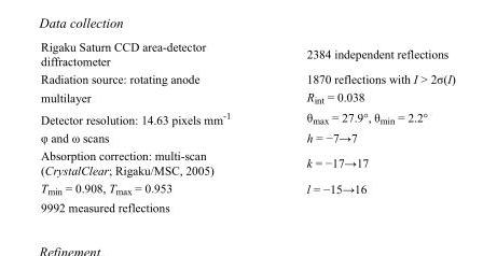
<table><tbody><tr><td>Rigaku Saturn CCD area-detector diffractometer</td><td>2384 independent reflections</td></tr><tr><td>Radiation source: rotating anode</td><td>1870 reflections with I &gt; 2σ(I)</td></tr><tr><td>multilayer</td><td>R<sub>int</sub> = 0.038</td></tr><tr><td>Detector resolution: 14.63 pixels mm<sup>-1</sup></td><td>θ<sub>max</sub> = 27.9°, θ<sub>min</sub> = 2.2°</td></tr><tr><td>φ and ω scans</td><td>h = −7→7</td></tr><tr><td>Absorption correction: multi-scan (CrystalClear; Rigaku/MSC, 2005)</td><td>k = −17→17</td></tr><tr><td>T<sub>min</sub> = 0.908, T<sub>max</sub> = 0.953</td><td>l = −15→16</td></tr><tr><td>9992 measured reflections</td><td></td></tr></tbody></table>